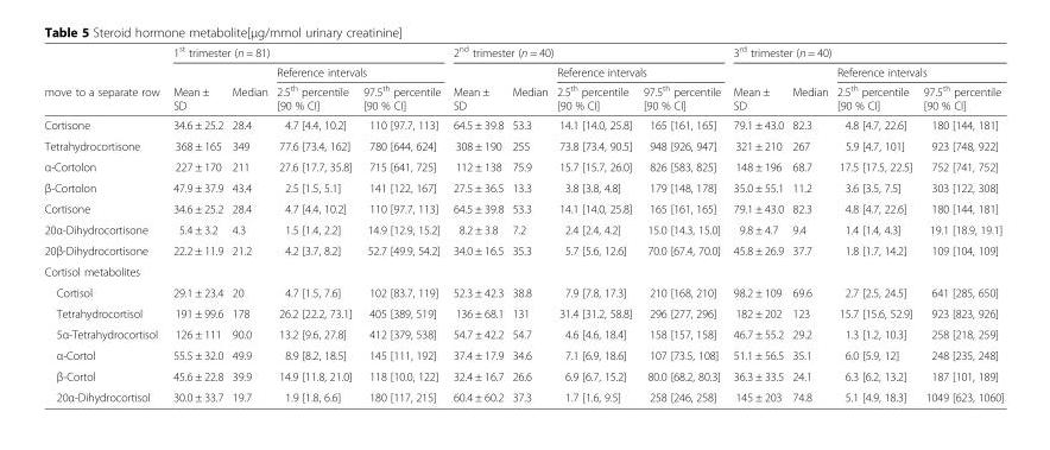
<table><thead><tr><td rowspan="3">move to a separate row</td><td colspan="4">1<sup>st</sup> trimester (n = 81)</td><td colspan="4">2<sup>nd</sup> trimester (n = 40)</td><td colspan="4">3<sup>rd</sup> trimester (n = 40)</td></tr><tr><td rowspan="2">Mean ± SD</td><td rowspan="2">Median</td><td colspan="2">Reference intervals</td><td rowspan="2">Mean ± SD</td><td rowspan="2">Median</td><td colspan="2">Reference intervals</td><td rowspan="2">Mean ± SD</td><td rowspan="2">Median</td><td colspan="2">Reference intervals</td></tr><tr><td>2.5<sup>th</sup> percentile [90 % CI]</td><td>97.5<sup>th</sup> percentile [90 % CI]</td><td>2.5<sup>th</sup> percentile [90 % CI]</td><td>97.5<sup>th</sup> percentile [90 % CI]</td><td>2.5<sup>th</sup> percentile [90 % CI]</td><td>97.5<sup>th</sup> percentile [90 % CI]</td></tr></thead><tbody><tr><td>Cortisone</td><td>34.6 ± 25.2</td><td>28.4</td><td>4.7 [4.4, 10.2]</td><td>110 [97.7, 113]</td><td>64.5 ± 39.8</td><td>53.3</td><td>14.1 [14.0, 25.8]</td><td>165 [161, 165]</td><td>79.1 ± 43.0</td><td>82.3</td><td>4.8 [4.7, 22.6]</td><td>180 [144, 181]</td></tr><tr><td>Tetrahydrocortisone</td><td>368 ± 165</td><td>349</td><td>77.6 [73.4, 162]</td><td>780 [644, 624]</td><td>308 ± 190</td><td>255</td><td>73.8 [73.4, 90.5]</td><td>948 [926, 947]</td><td>321 ± 210</td><td>267</td><td>5.9 [4.7, 101]</td><td>923 [748, 922]</td></tr><tr><td>α-Cortolon</td><td>227 ± 170</td><td>211</td><td>27.6 [17.7, 35.8]</td><td>715 [641, 725]</td><td>112 ± 138</td><td>75.9</td><td>15.7 [15.7, 26.0]</td><td>826 [583, 825]</td><td>148 ± 196</td><td>68.7</td><td>17.5 [17.5, 22.5]</td><td>752 [741, 752]</td></tr><tr><td>β-Cortolon</td><td>47.9 ± 37.9</td><td>43.4</td><td>2.5 [1.5, 5.1]</td><td>141 [122, 167]</td><td>27.5 ± 36.5</td><td>13.3</td><td>3.8 [3.8, 4.8]</td><td>179 [148, 178]</td><td>35.0 ± 55.1</td><td>11.2</td><td>3.6 [3.5, 7.5]</td><td>303 [122, 308]</td></tr><tr><td>Cortisone</td><td>34.6 ± 25.2</td><td>28.4</td><td>4.7 [4.4, 10.2]</td><td>110 [97.7, 113]</td><td>64.5 ± 39.8</td><td>53.3</td><td>14.1 [14.0, 25.8]</td><td>165 [161, 165]</td><td>79.1 ± 43.0</td><td>82.3</td><td>4.8 [4.7, 22.6]</td><td>180 [144, 181]</td></tr><tr><td>20α-Dihydrocortisone</td><td>5.4 ± 3.2</td><td>4.3</td><td>1.5 [1.4, 2.2]</td><td>14.9 [12.9, 15.2]</td><td>8.2 ± 3.8</td><td>7.2</td><td>2.4 [2.4, 4.2]</td><td>15.0 [14.3, 15.0]</td><td>9.8 ± 4.7</td><td>9.4</td><td>1.4 [1.4, 4.3]</td><td>19.1 [18.9, 19.1]</td></tr><tr><td>20β-Dihydrocortisone</td><td>22.2 ± 11.9</td><td>21.2</td><td>4.2 [3.7, 8.2]</td><td>52.7 [49.9, 54.2]</td><td>34.0 ± 16.5</td><td>35.3</td><td>5.7 [5.6, 12.6]</td><td>70.0 [67.4, 70.0]</td><td>45.8 ± 26.9</td><td>37.7</td><td>1.8 [1.7, 14.2]</td><td>109 [104, 109]</td></tr><tr><td colspan="13">Cortisol metabolites</td></tr><tr><td>Cortisol</td><td>29.1 ± 23.4</td><td>20</td><td>4.7 [1.5, 7.6]</td><td>102 [83.7, 119]</td><td>52.3 ± 42.3</td><td>38.8</td><td>7.9 [7.8, 17.3]</td><td>210 [168, 210]</td><td>98.2 ± 109</td><td>69.6</td><td>2.7 [2.5, 24.5]</td><td>641 [285, 650]</td></tr><tr><td>Tetrahydrocortisol</td><td>191 ± 99.6</td><td>178</td><td>26.2 [22.2, 73.1]</td><td>405 [389, 519]</td><td>136 ± 68.1</td><td>131</td><td>31.4 [31.2, 58.8]</td><td>296 [277, 296]</td><td>182 ± 202</td><td>123</td><td>15.7 [15.6, 52.9]</td><td>923 [823, 926]</td></tr><tr><td>5α-Tetrahydrocortisol</td><td>126 ± 111</td><td>90.0</td><td>13.2 [9.6, 27.8]</td><td>412 [379, 538]</td><td>54.7 ± 42.2</td><td>54.7</td><td>4.6 [4.6, 18.4]</td><td>158 [157, 158]</td><td>46.7 ± 55.2</td><td>29.2</td><td>1.3 [1.2, 10.3]</td><td>258 [218, 259]</td></tr><tr><td>α-Cortol</td><td>55.5 ± 32.0</td><td>49.9</td><td>8.9 [8.2, 18.5]</td><td>145 [111, 192]</td><td>37.4 ± 17.9</td><td>34.6</td><td>7.1 [6.9, 18.6]</td><td>107 [73.5, 108]</td><td>51.1 ± 56.5</td><td>35.1</td><td>6.0 [5.9, 12]</td><td>248 [235, 248]</td></tr><tr><td>β-Cortol</td><td>45.6 ± 22.8</td><td>39.9</td><td>14.9 [11.8, 21.0]</td><td>118 [10.0, 122]</td><td>32.4 ± 16.7</td><td>26.6</td><td>6.9 [6.7, 15.2]</td><td>80.0 [68.2, 80.3]</td><td>36.3 ± 33.5</td><td>24.1</td><td>6.3 [6.2, 13.2]</td><td>187 [101, 189]</td></tr><tr><td>20α-Dihydrocortisol</td><td>30.0 ± 33.7</td><td>19.7</td><td>1.9 [1.8, 6.6]</td><td>180 [117, 215]</td><td>60.4 ± 60.2</td><td>37.3</td><td>1.7 [1.6, 9.5]</td><td>258 [246, 258]</td><td>145 ± 203</td><td>74.8</td><td>5.1 [4.9, 18.3]</td><td>1049 [623, 1060]</td></tr></tbody></table>